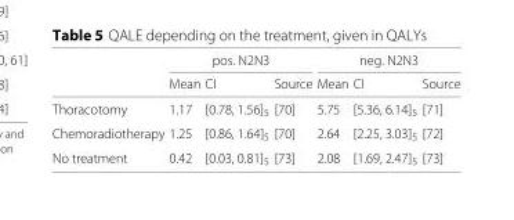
<table><thead><tr><td rowspan="2"></td><td colspan="3">pos. N2N3</td><td colspan="3">neg. N2N3</td></tr><tr><td>Mean</td><td>CI</td><td>Source</td><td>Mean</td><td>CI</td><td>Source</td></tr></thead><tbody><tr><td>Thoracotomy</td><td>1.17</td><td>[0.78, 1.56]<sub>5</sub></td><td>[70]</td><td>5.75</td><td>[5.36, 6.14]<sub>5</sub></td><td>[71]</td></tr><tr><td>Chemoradiotherapy</td><td>1.25</td><td>[0.86, 1.64]<sub>5</sub></td><td>[70]</td><td>2.64</td><td>[2.25, 3.03]<sub>5</sub></td><td>[72]</td></tr><tr><td>No treatment</td><td>0.42</td><td>[0.03, 0.81]<sub>5</sub></td><td>[73]</td><td>2.08</td><td>[1.69, 2.47]<sub>5</sub></td><td>[73]</td></tr></tbody></table>